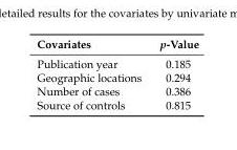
<table><thead><tr><td>Covariates</td><td>p-Value</td></tr></thead><tbody><tr><td>Publication year</td><td>0.185</td></tr><tr><td>Geographic locations</td><td>0.294</td></tr><tr><td>Number of cases</td><td>0.386</td></tr><tr><td>Source of controls</td><td>0.815</td></tr></tbody></table>